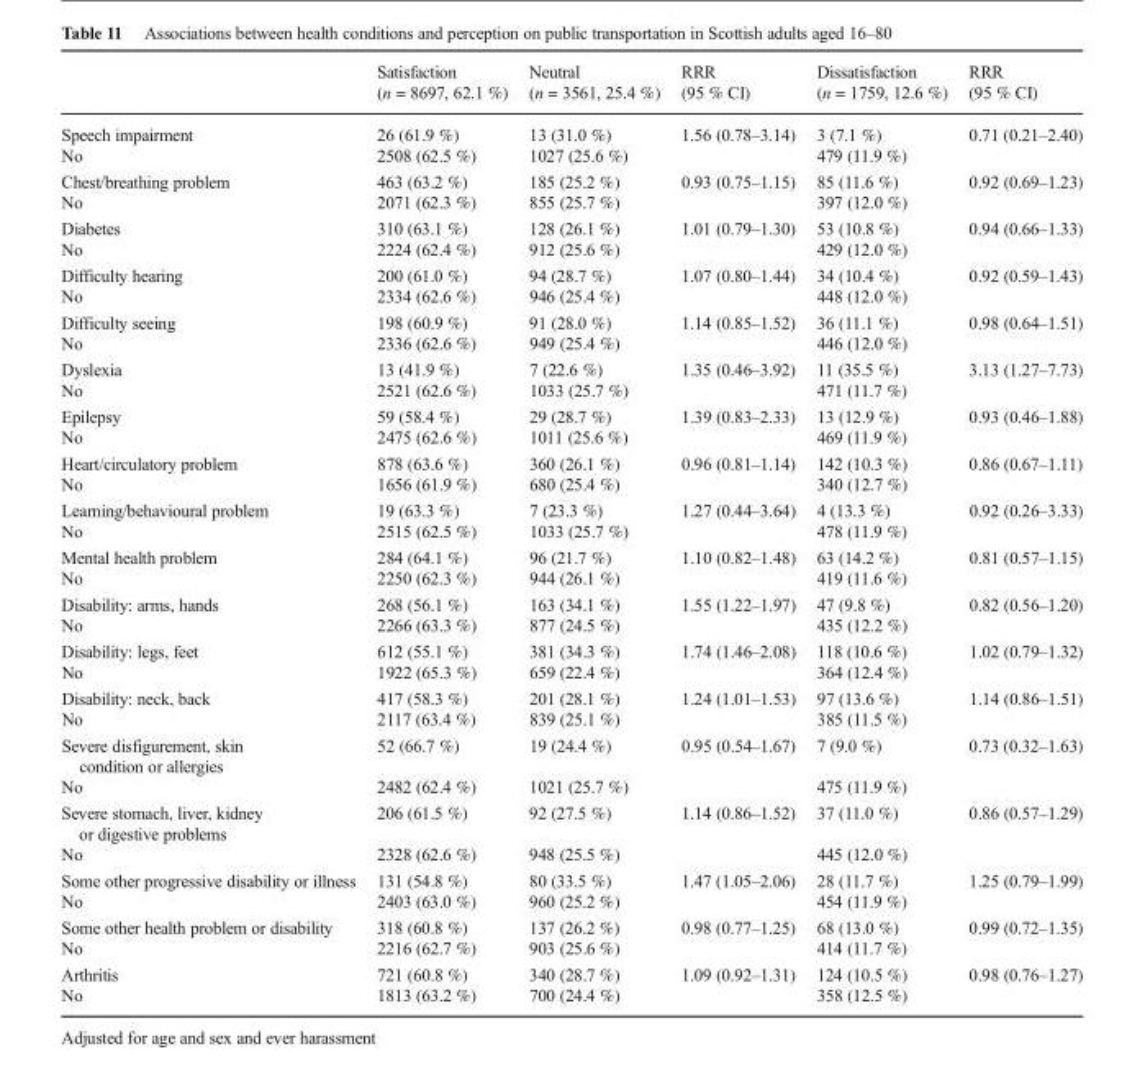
<table><thead><tr><td></td><td>Satisfaction (n = 8697, 62.1 %)</td><td>Neutral (n = 3561, 25.4 %)</td><td>RRR (95 % CI)</td><td>Dissatisfaction (n = 1759, 12.6 %)</td><td>RRR (95 % CI)</td></tr></thead><tbody><tr><td>Speech impairment</td><td>26 (61.9 %)</td><td>13 (31.0 %)</td><td rowspan="2">1.56 (0.78–3.14)</td><td>3 (7.1 %)</td><td rowspan="2">0.71 (0.21–2.40)</td></tr><tr><td>No</td><td>2508 (62.5 %)</td><td>1027 (25.6 %)</td><td>479 (11.9 %)</td></tr><tr><td>Chest/breathing problem</td><td>463 (63.2 %)</td><td>185 (25.2 %)</td><td rowspan="2">0.93 (0.75–1.15)</td><td>85 (11.6 %)</td><td rowspan="2">0.92 (0.69–1.23)</td></tr><tr><td>No</td><td>2071 (62.3 %)</td><td>855 (25.7 %)</td><td>397 (12.0 %)</td></tr><tr><td>Diabetes</td><td>310 (63.1 %)</td><td>128 (26.1 %)</td><td rowspan="2">1.01 (0.79–1.30)</td><td>53 (10.8 %)</td><td rowspan="2">0.94 (0.66–1.33)</td></tr><tr><td>No</td><td>2224 (62.4 %)</td><td>912 (25.6 %)</td><td>429 (12.0 %)</td></tr><tr><td>Difficulty hearing</td><td>200 (61.0 %)</td><td>94 (28.7 %)</td><td rowspan="2">1.07 (0.80–1.44)</td><td>34 (10.4 %)</td><td rowspan="2">0.92 (0.59–1.43)</td></tr><tr><td>No</td><td>2334 (62.6 %)</td><td>946 (25.4 %)</td><td>448 (12.0 %)</td></tr><tr><td>Difficulty seeing</td><td>198 (60.9 %)</td><td>91 (28.0 %)</td><td rowspan="2">1.14 (0.85–1.52)</td><td>36 (11.1 %)</td><td rowspan="2">0.98 (0.64–1.51)</td></tr><tr><td>No</td><td>2336 (62.6 %)</td><td>949 (25.4 %)</td><td>446 (12.0 %)</td></tr><tr><td>Dyslexia</td><td>13 (41.9 %)</td><td>7 (22.6 %)</td><td rowspan="2">1.35 (0.46–3.92)</td><td>11 (35.5 %)</td><td rowspan="2">3.13 (1.27–7.73)</td></tr><tr><td>No</td><td>2521 (62.6 %)</td><td>1033 (25.7 %)</td><td>471 (11.7 %)</td></tr><tr><td>Epilepsy</td><td>59 (58.4 %)</td><td>29 (28.7 %)</td><td rowspan="2">1.39 (0.83–2.33)</td><td>13 (12.9 %)</td><td rowspan="2">0.93 (0.46–1.88)</td></tr><tr><td>No</td><td>2475 (62.6 %)</td><td>1011 (25.6 %)</td><td>469 (11.9 %)</td></tr><tr><td>Heart/circulatory problem</td><td>878 (63.6 %)</td><td>360 (26.1 %)</td><td rowspan="2">0.96 (0.81–1.14)</td><td>142 (10.3 %)</td><td rowspan="2">0.86 (0.67–1.11)</td></tr><tr><td>No</td><td>1656 (61.9 %)</td><td>680 (25.4 %)</td><td>340 (12.7 %)</td></tr><tr><td>Learning/behavioural problem</td><td>19 (63.3 %)</td><td>7 (23.3 %)</td><td rowspan="2">1.27 (0.44–3.64)</td><td>4 (13.3 %)</td><td rowspan="2">0.92 (0.26–3.33)</td></tr><tr><td>No</td><td>2515 (62.5 %)</td><td>1033 (25.7 %)</td><td>478 (11.9 %)</td></tr><tr><td>Mental health problem</td><td>284 (64.1 %)</td><td>96 (21.7 %)</td><td rowspan="2">1.10 (0.82–1.48)</td><td>63 (14.2 %)</td><td rowspan="2">0.81 (0.57–1.15)</td></tr><tr><td>No</td><td>2250 (62.3 %)</td><td>944 (26.1 %)</td><td>419 (11.6 %)</td></tr><tr><td>Disability: arms, hands</td><td>268 (56.1 %)</td><td>163 (34.1 %)</td><td rowspan="2">1.55 (1.22–1.97)</td><td>47 (9.8 %)</td><td rowspan="2">0.82 (0.56–1.20)</td></tr><tr><td>No</td><td>2266 (63.3 %)</td><td>877 (24.5 %)</td><td>435 (12.2 %)</td></tr><tr><td>Disability: legs, feet</td><td>612 (55.1 %)</td><td>381 (34.3 %)</td><td rowspan="2">1.74 (1.46–2.08)</td><td>118 (10.6 %)</td><td rowspan="2">1.02 (0.79–1.32)</td></tr><tr><td>No</td><td>1922 (65.3 %)</td><td>659 (22.4 %)</td><td>364 (12.4 %)</td></tr><tr><td>Disability: neck, back</td><td>417 (58.3 %)</td><td>201 (28.1 %)</td><td rowspan="2">1.24 (1.01–1.53)</td><td>97 (13.6 %)</td><td rowspan="2">1.14 (0.86–1.51)</td></tr><tr><td>No</td><td>2117 (63.4 %)</td><td>839 (25.1 %)</td><td>385 (11.5 %)</td></tr><tr><td>Severe disfigurement, skin condition or allergies</td><td>52 (66.7 %)</td><td>19 (24.4 %)</td><td rowspan="2">0.95 (0.54–1.67)</td><td>7 (9.0 %)</td><td rowspan="2">0.73 (0.32–1.63)</td></tr><tr><td>No</td><td>2482 (62.4 %)</td><td>1021 (25.7 %)</td><td>475 (11.9 %)</td></tr><tr><td>Severe stomach, liver, kidney or digestive problems</td><td>206 (61.5 %)</td><td>92 (27.5 %)</td><td rowspan="2">1.14 (0.86–1.52)</td><td>37 (11.0 %)</td><td rowspan="2">0.86 (0.57–1.29)</td></tr><tr><td>No</td><td>2328 (62.6 %)</td><td>948 (25.5 %)</td><td>445 (12.0 %)</td></tr><tr><td>Some other progressive disability or illness</td><td>131 (54.8 %)</td><td>80 (33.5 %)</td><td rowspan="2">1.47 (1.05–2.06)</td><td>28 (11.7 %)</td><td rowspan="2">1.25 (0.79–1.99)</td></tr><tr><td>No</td><td>2403 (63.0 %)</td><td>960 (25.2 %)</td><td>454 (11.9 %)</td></tr><tr><td>Some other health problem or disability</td><td>318 (60.8 %)</td><td>137 (26.2 %)</td><td rowspan="2">0.98 (0.77–1.25)</td><td>68 (13.0 %)</td><td rowspan="2">0.99 (0.72–1.35)</td></tr><tr><td>No</td><td>2216 (62.7 %)</td><td>903 (25.6 %)</td><td>414 (11.7 %)</td></tr><tr><td>Arthritis</td><td>721 (60.8 %)</td><td>340 (28.7 %)</td><td rowspan="2">1.09 (0.92–1.31)</td><td>124 (10.5 %)</td><td rowspan="2">0.98 (0.76–1.27)</td></tr><tr><td>No</td><td>1813 (63.2 %)</td><td>700 (24.4 %)</td><td>358 (12.5 %)</td></tr></tbody></table>